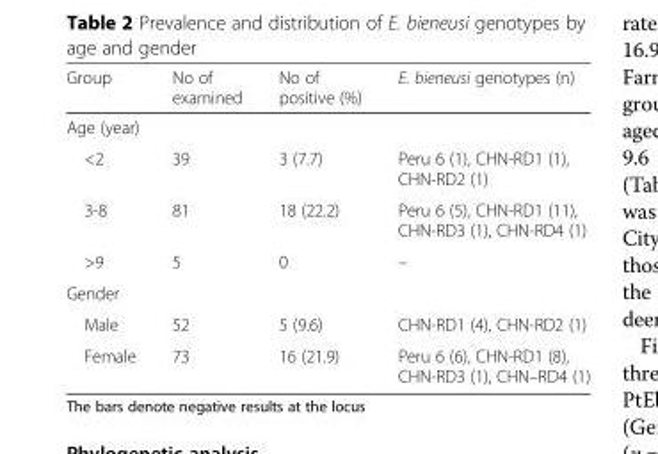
<table><thead><tr><td>Group</td><td>No of examined</td><td>No of positive (%)</td><td>E. bieneusi genotypes (n)</td></tr></thead><tbody><tr><td colspan="4">Age (year)</td></tr><tr><td>&lt;2</td><td>39</td><td>3 (7.7)</td><td>Peru 6 (1), CHN-RD1 (1), CHN-RD2 (1)</td></tr><tr><td>3-8</td><td>81</td><td>18 (22.2)</td><td>Peru 6 (5), CHN-RD1 (11), CHN-RD3 (1), CHN-RD4 (1)</td></tr><tr><td>&gt;9</td><td>5</td><td>0</td><td>–</td></tr><tr><td colspan="4">Gender</td></tr><tr><td>Male</td><td>52</td><td>5 (9.6)</td><td>CHN-RD1 (4), CHN-RD2 (1)</td></tr><tr><td>Female</td><td>73</td><td>16 (21.9)</td><td>Peru 6 (6), CHN-RD1 (8), CHN-RD3 (1), CHN–RD4 (1)</td></tr></tbody></table>